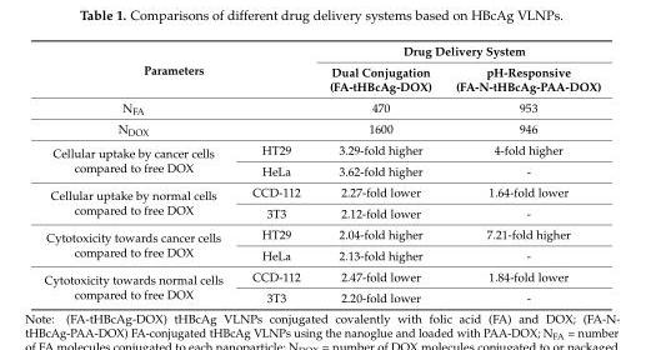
<table><thead><tr><td rowspan="2" colspan="2">Parameters</td><td colspan="2">Drug Delivery System</td></tr><tr><td rowspan="2">Dual Conjugation (FA-tHBcAg-DOX) 470</td><td rowspan="2">pH-Responsive (FA-N-tHBcAg-PAA-DOX) 953</td></tr><tr><td>NFA</td><td></td></tr></thead><tbody><tr><td>NDOX</td><td></td><td>1600</td><td>946</td></tr><tr><td rowspan="2">Cellular uptake by cancer cells compared to free DOX</td><td>HT29</td><td>3.29-fold higher</td><td>4-fold higher</td></tr><tr><td>HeLa</td><td>3.62-fold higher</td><td>-</td></tr><tr><td rowspan="2">Cellular uptake by normal cells compared to free DOX</td><td>CCD-112</td><td>2.27-fold lower</td><td>1.64-fold lower</td></tr><tr><td>3T3</td><td>2.12-fold lower</td><td>-</td></tr><tr><td rowspan="2">Cytotoxicity towards cancer cells compared to free DOX</td><td>HT29</td><td>2.04-fold higher</td><td>7.21-fold higher</td></tr><tr><td>HeLa</td><td>2.13-fold higher</td><td>-</td></tr><tr><td rowspan="2">Cytotoxicity towards normal cells compared to free DOX</td><td>CCD-112</td><td>2.47-fold lower</td><td>1.84-fold lower</td></tr><tr><td>3T3</td><td>2.20-fold lower</td><td>-</td></tr></tbody></table>